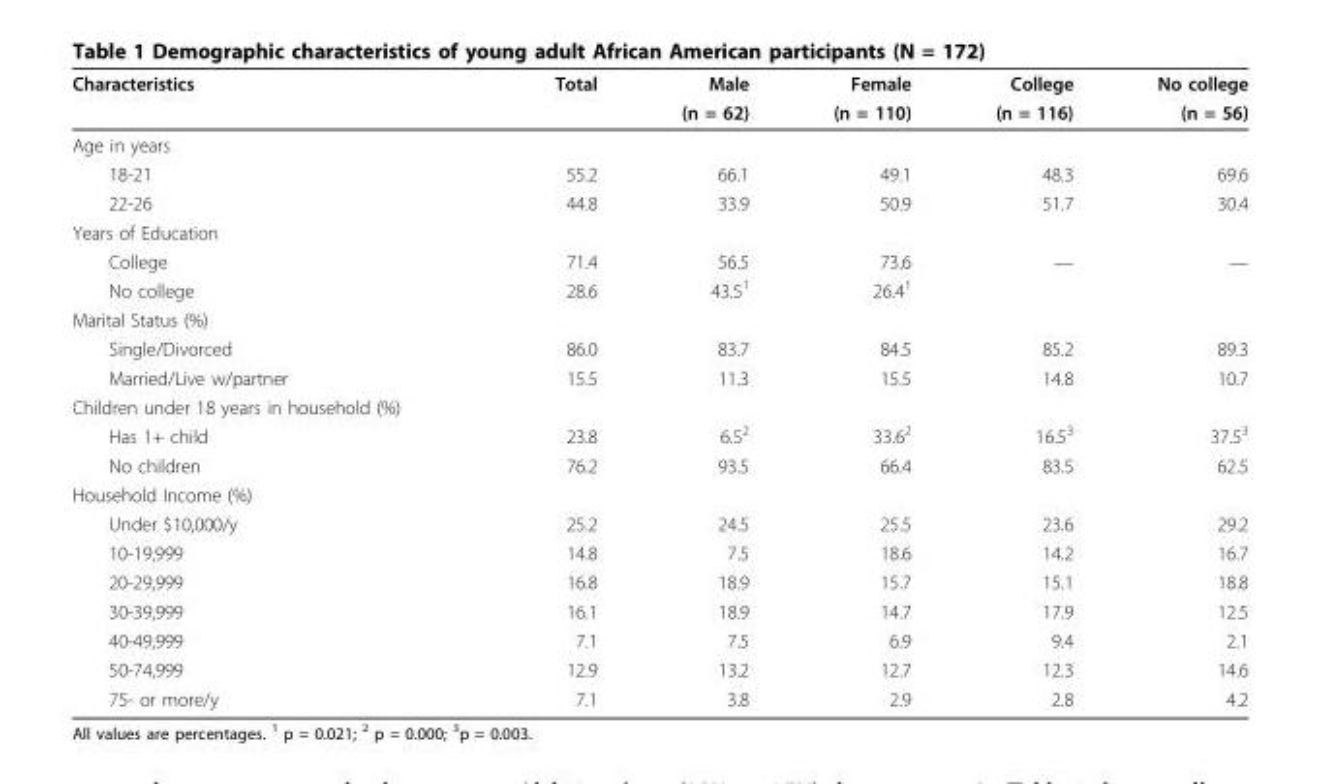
<table><thead><tr><td rowspan="2">Characteristics</td><td rowspan="2">Total</td><td rowspan="2">Male (n = 62)</td><td rowspan="2">Female (n = 110)</td><td rowspan="2">College (n = 116)</td><td rowspan="2">No college (n = 56)</td></tr><tr></tr></thead><tbody><tr><td colspan="6">Age in years</td></tr><tr><td>18-21</td><td>55.2</td><td>66.1</td><td>49.1</td><td>48.3</td><td>69.6</td></tr><tr><td>22-26</td><td>44.8</td><td>33.9</td><td>50.9</td><td>51.7</td><td>30.4</td></tr><tr><td colspan="6">Years of Education</td></tr><tr><td>College</td><td>71.4</td><td>56.5</td><td>73.6</td><td>—</td><td>—</td></tr><tr><td>No college</td><td>28.6</td><td>43.5<sup>1</sup></td><td>26.4<sup>1</sup></td><td></td><td></td></tr><tr><td colspan="6">Marital Status (%)</td></tr><tr><td>Single/Divorced</td><td>86.0</td><td>83.7</td><td>84.5</td><td>85.2</td><td>89.3</td></tr><tr><td>Married/Live w/partner</td><td>15.5</td><td>11.3</td><td>15.5</td><td>14.8</td><td>10.7</td></tr><tr><td colspan="6">Children under 18 years in household (%)</td></tr><tr><td>Has 1+ child</td><td>23.8</td><td>6.5<sup>2</sup></td><td>33.6<sup>2</sup></td><td>16.5<sup>3</sup></td><td>37.5<sup>3</sup></td></tr><tr><td>No children</td><td>76.2</td><td>93.5</td><td>66.4</td><td>83.5</td><td>62.5</td></tr><tr><td colspan="6">Household Income (%)</td></tr><tr><td>Under $10,000/y</td><td>25.2</td><td>24.5</td><td>25.5</td><td>23.6</td><td>29.2</td></tr><tr><td>10-19,999</td><td>14.8</td><td>7.5</td><td>18.6</td><td>14.2</td><td>16.7</td></tr><tr><td>20-29,999</td><td>16.8</td><td>18.9</td><td>15.7</td><td>15.1</td><td>18.8</td></tr><tr><td>30-39,999</td><td>16.1</td><td>18.9</td><td>14.7</td><td>17.9</td><td>12.5</td></tr><tr><td>40-49,999</td><td>7.1</td><td>7.5</td><td>6.9</td><td>9.4</td><td>2.1</td></tr><tr><td>50-74,999</td><td>12.9</td><td>13.2</td><td>12.7</td><td>12.3</td><td>14.6</td></tr><tr><td>75- or more/y</td><td>7.1</td><td>3.8</td><td>2.9</td><td>2.8</td><td>4.2</td></tr></tbody></table>